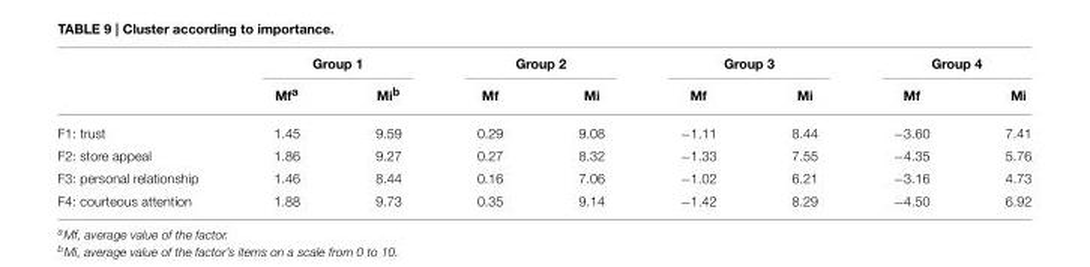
<table><thead><tr><td rowspan="2"></td><td colspan="2">Group 1</td><td colspan="2">Group 2</td><td colspan="2">Group 3</td><td colspan="2">Group 4</td></tr><tr><td>Mf<sup>a</sup></td><td>Mi<sup>b</sup></td><td>Mf</td><td>Mi</td><td>Mf</td><td>Mi</td><td>Mf</td><td>Mi</td></tr></thead><tbody><tr><td>F1: trust</td><td>1.45</td><td>9.59</td><td>0.29</td><td>9.08</td><td>−1.11</td><td>8.44</td><td>−3.60</td><td>7.41</td></tr><tr><td>F2: store appeal</td><td>1.86</td><td>9.27</td><td>0.27</td><td>8.32</td><td>−1.33</td><td>7.55</td><td>−4.35</td><td>5.76</td></tr><tr><td>F3: personal relationship</td><td>1.46</td><td>8.44</td><td>0.16</td><td>7.06</td><td>−1.02</td><td>6.21</td><td>−3.16</td><td>4.73</td></tr><tr><td>F4: courteous attention</td><td>1.88</td><td>9.73</td><td>0.35</td><td>9.14</td><td>−1.42</td><td>8.29</td><td>−4.50</td><td>6.92</td></tr></tbody></table>